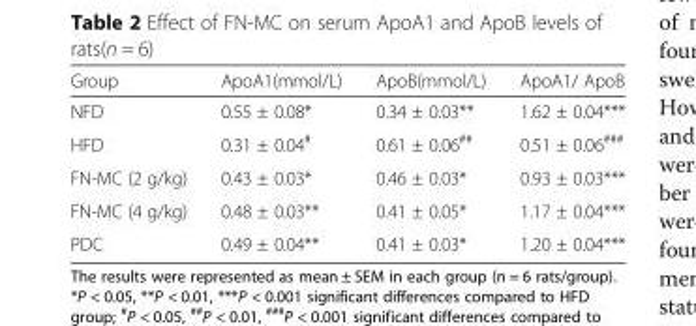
<table><thead><tr><td>Group</td><td>ApoA1(mmol/L)</td><td>ApoB(mmol/L)</td><td>ApoA1/ ApoB</td></tr></thead><tbody><tr><td>NFD</td><td>0.55 ± 0.08*</td><td>0.34 ± 0.03**</td><td>1.62 ± 0.04***</td></tr><tr><td>HFD</td><td>0.31 ± 0.04<sup>#</sup></td><td>0.61 ± 0.06<sup>##</sup></td><td>0.51 ± 0.06<sup>###</sup></td></tr><tr><td>FN-MC (2 g/kg)</td><td>0.43 ± 0.03*</td><td>0.46 ± 0.03*</td><td>0.93 ± 0.03***</td></tr><tr><td>FN-MC (4 g/kg)</td><td>0.48 ± 0.03**</td><td>0.41 ± 0.05*</td><td>1.17 ± 0.04***</td></tr><tr><td>PDC</td><td>0.49 ± 0.04**</td><td>0.41 ± 0.03*</td><td>1.20 ± 0.04***</td></tr></tbody></table>